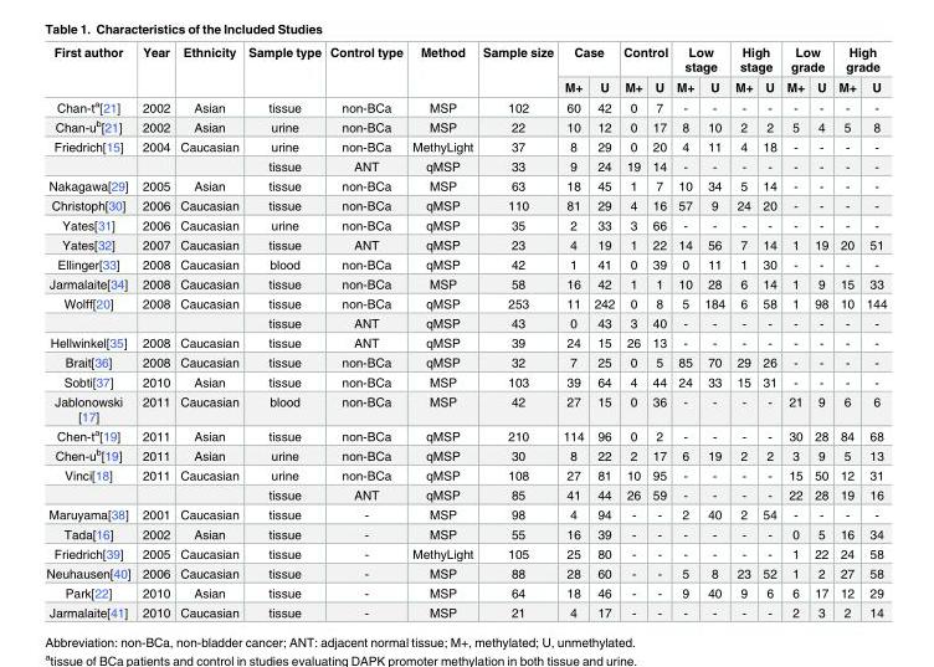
<table><thead><tr><td rowspan="2">First author</td><td rowspan="2">Year</td><td rowspan="2">Ethnicity</td><td rowspan="2">Sample type</td><td rowspan="2">Control type</td><td rowspan="2">Method</td><td rowspan="2">Sample size</td><td colspan="2">Case</td><td colspan="2">Control</td><td colspan="2">Low stage</td><td colspan="2">High stage</td><td colspan="2">Low grade</td><td colspan="2">High grade</td></tr><tr><td>M+</td><td>U</td><td>M+</td><td>U</td><td>M+</td><td>U</td><td>M+</td><td>U</td><td>M+</td><td>U</td><td>M+</td><td>U</td></tr></thead><tbody><tr><td>Chan-t<sup>a</sup>[21]</td><td>2002</td><td>Asian</td><td>tissue</td><td>non-BCa</td><td>MSP</td><td>102</td><td>60</td><td>42</td><td>0</td><td>7</td><td>-</td><td>-</td><td>-</td><td>-</td><td>-</td><td>-</td><td>-</td><td>-</td></tr><tr><td>Chan-u<sup>b</sup>[21]</td><td>2002</td><td>Asian</td><td>urine</td><td>non-BCa</td><td>MSP</td><td>22</td><td>10</td><td>12</td><td>0</td><td>17</td><td>8</td><td>10</td><td>2</td><td>2</td><td>5</td><td>4</td><td>5</td><td>8</td></tr><tr><td rowspan="2">Friedrich[15]</td><td>2004</td><td>Caucasian</td><td>urine</td><td>non-BCa</td><td>MethyLight</td><td>37</td><td>8</td><td>29</td><td>0</td><td>20</td><td>4</td><td>11</td><td>4</td><td>18</td><td>-</td><td>-</td><td>-</td><td>-</td></tr><tr><td></td><td></td><td>tissue</td><td>ANT</td><td>qMSP</td><td>33</td><td>9</td><td>24</td><td>19</td><td>14</td><td>-</td><td>-</td><td>-</td><td>-</td><td>-</td><td>-</td><td>-</td><td>-</td></tr><tr><td>Nakagawa[29]</td><td>2005</td><td>Asian</td><td>tissue</td><td>non-BCa</td><td>MSP</td><td>63</td><td>18</td><td>45</td><td>1</td><td>7</td><td>10</td><td>34</td><td>5</td><td>14</td><td>-</td><td>-</td><td>-</td><td>-</td></tr><tr><td>Christoph[30]</td><td>2006</td><td>Caucasian</td><td>tissue</td><td>non-BCa</td><td>qMSP</td><td>110</td><td>81</td><td>29</td><td>4</td><td>16</td><td>57</td><td>9</td><td>24</td><td>20</td><td>-</td><td>-</td><td>-</td><td>-</td></tr><tr><td>Yates[31]</td><td>2006</td><td>Caucasian</td><td>urine</td><td>non-BCa</td><td>qMSP</td><td>35</td><td>2</td><td>33</td><td>3</td><td>66</td><td>-</td><td>-</td><td>-</td><td>-</td><td>-</td><td>-</td><td>-</td><td>-</td></tr><tr><td>Yates[32]</td><td>2007</td><td>Caucasian</td><td>tissue</td><td>ANT</td><td>qMSP</td><td>23</td><td>4</td><td>19</td><td>1</td><td>22</td><td>14</td><td>56</td><td>7</td><td>14</td><td>1</td><td>19</td><td>20</td><td>51</td></tr><tr><td>Ellinger[33]</td><td>2008</td><td>Caucasian</td><td>blood</td><td>non-BCa</td><td>qMSP</td><td>42</td><td>1</td><td>41</td><td>0</td><td>39</td><td>0</td><td>11</td><td>1</td><td>30</td><td>-</td><td>-</td><td>-</td><td>-</td></tr><tr><td>Jarmalaite[34]</td><td>2008</td><td>Caucasian</td><td>tissue</td><td>non-BCa</td><td>MSP</td><td>58</td><td>16</td><td>42</td><td>1</td><td>1</td><td>10</td><td>28</td><td>6</td><td>14</td><td>1</td><td>9</td><td>15</td><td>33</td></tr><tr><td rowspan="2">Wolff[20]</td><td>2008</td><td>Caucasian</td><td>tissue</td><td>non-BCa</td><td>qMSP</td><td>253</td><td>11</td><td>242</td><td>0</td><td>8</td><td>5</td><td>184</td><td>6</td><td>58</td><td>1</td><td>98</td><td>10</td><td>144</td></tr><tr><td></td><td></td><td>tissue</td><td>ANT</td><td>qMSP</td><td>43</td><td>0</td><td>43</td><td>3</td><td>40</td><td>-</td><td>-</td><td>-</td><td>-</td><td>-</td><td>-</td><td>-</td><td>-</td></tr><tr><td>Hellwinkel[35]</td><td>2008</td><td>Caucasian</td><td>tissue</td><td>ANT</td><td>qMSP</td><td>39</td><td>24</td><td>15</td><td>26</td><td>13</td><td>-</td><td>-</td><td>-</td><td>-</td><td>-</td><td>-</td><td>-</td><td>-</td></tr><tr><td>Brait[36]</td><td>2008</td><td>Caucasian</td><td>tissue</td><td>non-BCa</td><td>qMSP</td><td>32</td><td>7</td><td>25</td><td>0</td><td>5</td><td>85</td><td>70</td><td>29</td><td>26</td><td>-</td><td>-</td><td>-</td><td>-</td></tr><tr><td>Sobti[37]</td><td>2010</td><td>Asian</td><td>tissue</td><td>non-BCa</td><td>MSP</td><td>103</td><td>39</td><td>64</td><td>4</td><td>44</td><td>24</td><td>33</td><td>15</td><td>31</td><td>-</td><td>-</td><td>-</td><td>-</td></tr><tr><td>Jablonowski [17]</td><td>2011</td><td>Caucasian</td><td>blood</td><td>non-BCa</td><td>MSP</td><td>42</td><td>27</td><td>15</td><td>0</td><td>36</td><td>-</td><td>-</td><td>-</td><td>-</td><td>21</td><td>9</td><td>6</td><td>6</td></tr><tr><td>Chen-t<sup>a</sup>[19]</td><td>2011</td><td>Asian</td><td>tissue</td><td>non-BCa</td><td>qMSP</td><td>210</td><td>114</td><td>96</td><td>0</td><td>2</td><td>-</td><td>-</td><td>-</td><td>-</td><td>30</td><td>28</td><td>84</td><td>68</td></tr><tr><td>Chen-u<sup>b</sup>[19]</td><td>2011</td><td>Asian</td><td>urine</td><td>non-BCa</td><td>qMSP</td><td>30</td><td>8</td><td>22</td><td>2</td><td>17</td><td>6</td><td>19</td><td>2</td><td>2</td><td>3</td><td>9</td><td>5</td><td>13</td></tr><tr><td rowspan="2">Vinci[18]</td><td>2011</td><td>Caucasian</td><td>urine</td><td>non-BCa</td><td>qMSP</td><td>108</td><td>27</td><td>81</td><td>10</td><td>95</td><td>-</td><td>-</td><td>-</td><td>-</td><td>15</td><td>50</td><td>12</td><td>31</td></tr><tr><td></td><td></td><td>tissue</td><td>ANT</td><td>qMSP</td><td>85</td><td>41</td><td>44</td><td>26</td><td>59</td><td>-</td><td>-</td><td>-</td><td>-</td><td>22</td><td>28</td><td>19</td><td>16</td></tr><tr><td>Maruyama[38]</td><td>2001</td><td>Caucasian</td><td>tissue</td><td>-</td><td>MSP</td><td>98</td><td>4</td><td>94</td><td>-</td><td>-</td><td>2</td><td>40</td><td>2</td><td>54</td><td>-</td><td>-</td><td>-</td><td>-</td></tr><tr><td>Tada[16]</td><td>2002</td><td>Asian</td><td>tissue</td><td>-</td><td>MSP</td><td>55</td><td>16</td><td>39</td><td>-</td><td>-</td><td>-</td><td>-</td><td>-</td><td>-</td><td>0</td><td>5</td><td>16</td><td>34</td></tr><tr><td>Friedrich[39]</td><td>2005</td><td>Caucasian</td><td>tissue</td><td>-</td><td>MethyLight</td><td>105</td><td>25</td><td>80</td><td>-</td><td>-</td><td>-</td><td>-</td><td>-</td><td>-</td><td>1</td><td>22</td><td>24</td><td>58</td></tr><tr><td>Neuhausen[40]</td><td>2006</td><td>Caucasian</td><td>tissue</td><td>-</td><td>MSP</td><td>88</td><td>28</td><td>60</td><td>-</td><td>-</td><td>5</td><td>8</td><td>23</td><td>52</td><td>1</td><td>2</td><td>27</td><td>58</td></tr><tr><td>Park[22]</td><td>2010</td><td>Asian</td><td>tissue</td><td>-</td><td>MSP</td><td>64</td><td>18</td><td>46</td><td>-</td><td>-</td><td>9</td><td>40</td><td>9</td><td>6</td><td>6</td><td>17</td><td>12</td><td>29</td></tr><tr><td>Jarmalaite[41]</td><td>2010</td><td>Caucasian</td><td>tissue</td><td>-</td><td>MSP</td><td>21</td><td>4</td><td>17</td><td>-</td><td>-</td><td>-</td><td>-</td><td>-</td><td>-</td><td>2</td><td>3</td><td>2</td><td>14</td></tr></tbody></table>